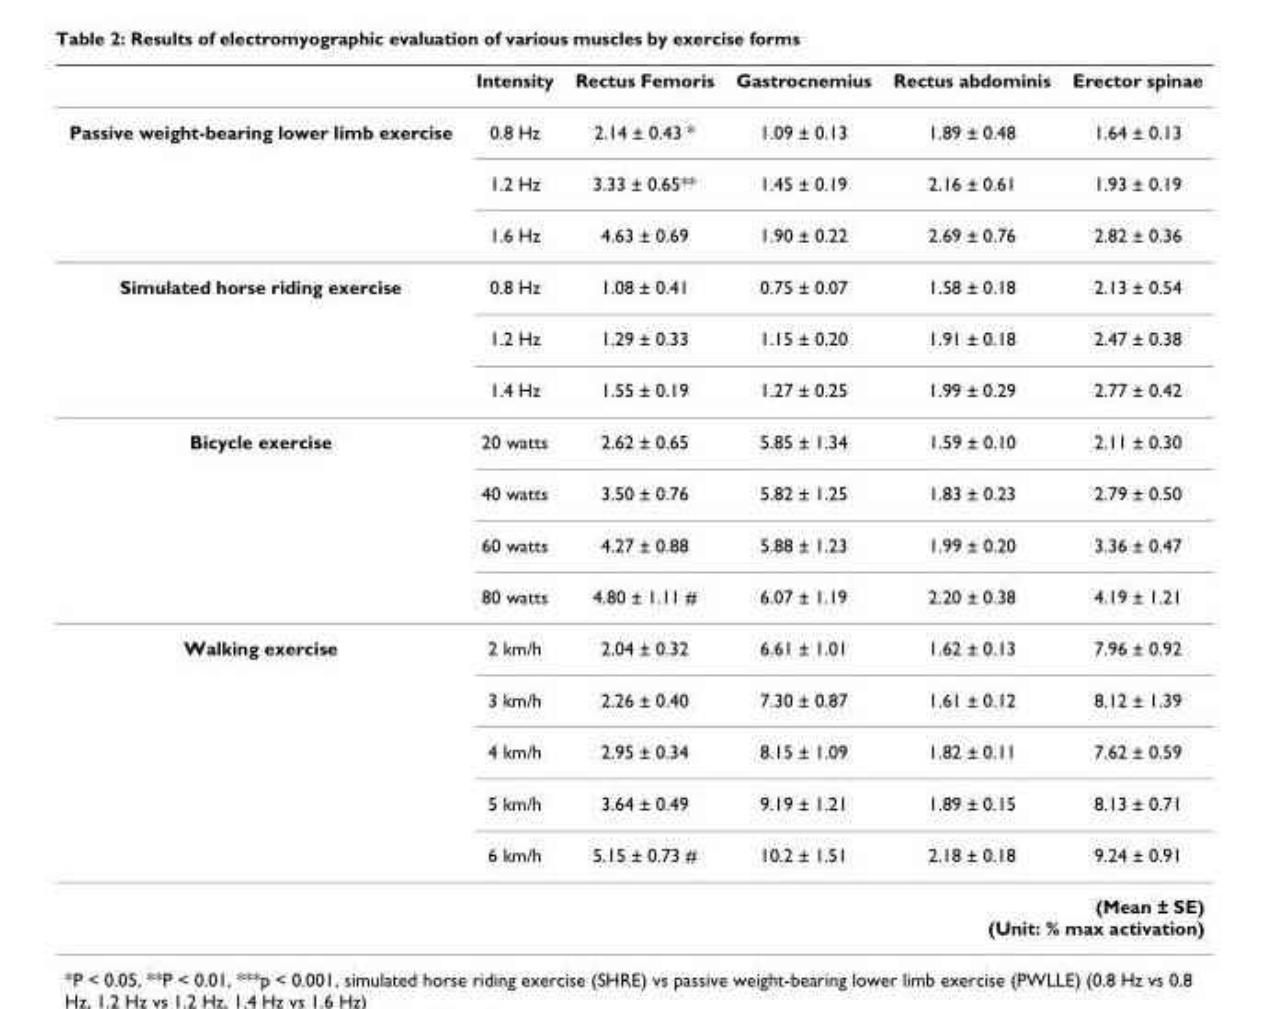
<table><thead><tr><td></td><td>Intensity</td><td>Rectus Femoris</td><td>Gastrocnemius</td><td>Rectus abdominis</td><td>Erector spinae</td></tr></thead><tbody><tr><td rowspan="3">Passive weight-bearing lower limb exercise</td><td>0.8 Hz</td><td>2.14 ± 0.43 *</td><td>1.09 ± 0.13</td><td>1.89 ± 0.48</td><td>1.64 ± 0.13</td></tr><tr><td>1.2 Hz</td><td>3.33 ± 0.65**</td><td>1.45 ± 0.19</td><td>2.16 ± 0.61</td><td>1.93 ± 0.19</td></tr><tr><td>1.6 Hz</td><td>4.63 ± 0.69</td><td>1.90 ± 0.22</td><td>2.69 ± 0.76</td><td>2.82 ± 0.36</td></tr><tr><td rowspan="3">Simulated horse riding exercise</td><td>0.8 Hz</td><td>1.08 ± 0.41</td><td>0.75 ± 0.07</td><td>1.58 ± 0.18</td><td>2.13 ± 0.54</td></tr><tr><td>1.2 Hz</td><td>1.29 ± 0.33</td><td>1.15 ± 0.20</td><td>1.91 ± 0.18</td><td>2.47 ± 0.38</td></tr><tr><td>1.4 Hz</td><td>1.55 ± 0.19</td><td>1.27 ± 0.25</td><td>1.99 ± 0.29</td><td>2.77 ± 0.42</td></tr><tr><td rowspan="4">Bicycle exercise</td><td>20 watts</td><td>2.62 ± 0.65</td><td>5.85 ± 1.34</td><td>1.59 ± 0.10</td><td>2.11 ± 0.30</td></tr><tr><td>40 watts</td><td>3.50 ± 0.76</td><td>5.82 ± 1.25</td><td>1.83 ± 0.23</td><td>2.79 ± 0.50</td></tr><tr><td>60 watts</td><td>4.27 ± 0.88</td><td>5.88 ± 1.23</td><td>1.99 ± 0.20</td><td>3.36 ± 0.47</td></tr><tr><td>80 watts</td><td>4.80 ± 1.11 #</td><td>6.07 ± 1.19</td><td>2.20 ± 0.38</td><td>4.19 ± 1.21</td></tr><tr><td rowspan="5">Walking exercise</td><td>2 km/h</td><td>2.04 ± 0.32</td><td>6.61 ± 1.01</td><td>1.62 ± 0.13</td><td>7.96 ± 0.92</td></tr><tr><td>3 km/h</td><td>2.26 ± 0.40</td><td>7.30 ± 0.87</td><td>1.61 ± 0.12</td><td>8.12 ± 1.39</td></tr><tr><td>4 km/h</td><td>2.95 ± 0.34</td><td>8.15 ± 1.09</td><td>1.82 ± 0.11</td><td>7.62 ± 0.59</td></tr><tr><td>5 km/h</td><td>3.64 ± 0.49</td><td>9.19 ± 1.21</td><td>1.89 ± 0.15</td><td>8.13 ± 0.71</td></tr><tr><td>6 km/h</td><td>5.15 ± 0.73 #</td><td>10.2 ± 1.51</td><td>2.18 ± 0.18</td><td>9.24 ± 0.91</td></tr><tr><td colspan="6">(Mean ± SE) (Unit: % max activation)</td></tr></tbody></table>